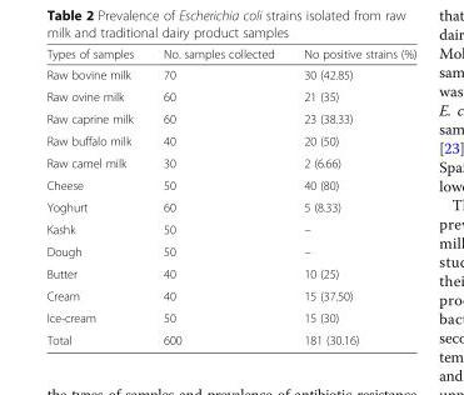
<table><thead><tr><td>Types of samples</td><td>No. samples collected</td><td>No positive strains (%)</td></tr></thead><tbody><tr><td>Raw bovine milk</td><td>70</td><td>30 (42.85)</td></tr><tr><td>Raw ovine milk</td><td>60</td><td>21 (35)</td></tr><tr><td>Raw caprine milk</td><td>60</td><td>23 (38.33)</td></tr><tr><td>Raw buffalo milk</td><td>40</td><td>20 (50)</td></tr><tr><td>Raw camel milk</td><td>30</td><td>2 (6.66)</td></tr><tr><td>Cheese</td><td>50</td><td>40 (80)</td></tr><tr><td>Yoghurt</td><td>60</td><td>5 (8.33)</td></tr><tr><td>Kashk</td><td>50</td><td>–</td></tr><tr><td>Dough</td><td>50</td><td>–</td></tr><tr><td>Butter</td><td>40</td><td>10 (25)</td></tr><tr><td>Cream</td><td>40</td><td>15 (37.50)</td></tr><tr><td>Ice-cream</td><td>50</td><td>15 (30)</td></tr><tr><td>Total</td><td>600</td><td>181 (30.16)</td></tr></tbody></table>